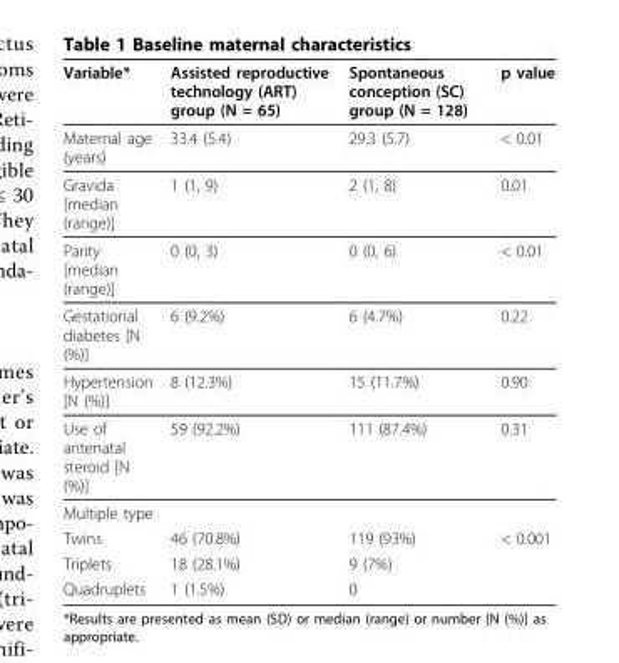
<table><thead><tr><td>Variable*</td><td>Assisted reproductive technology (ART) group (N = 65)</td><td>Spontaneous conception (SC) group (N = 128)</td><td>p value</td></tr></thead><tbody><tr><td>Maternal age (years)</td><td>33.4 (5.4)</td><td>29.3 (5.7)</td><td>&lt; 0.01</td></tr><tr><td>Gravida [median (range)]</td><td>1 (1, 9)</td><td>2 (1, 8)</td><td>0.01</td></tr><tr><td>Parity [median (range)]</td><td>0 (0, 3)</td><td>0 (0, 6)</td><td>&lt; 0.01</td></tr><tr><td>Gestational diabetes [N (%)]</td><td>6 (9.2%)</td><td>6 (4.7%)</td><td>0.22</td></tr><tr><td>Hypertension [N (%)]</td><td>8 (12.3%)</td><td>15 (11.7%)</td><td>0.90</td></tr><tr><td>Use of antenatal steroid [N (%)]</td><td>59 (92.2%)</td><td>111 (87.4%)</td><td>0.31</td></tr><tr><td colspan="4">Multiple type</td></tr><tr><td>Twins</td><td>46 (70.8%)</td><td>119 (93%)</td><td>&lt; 0.001</td></tr><tr><td>Triplets</td><td>18 (28.1%)</td><td>9 (7%)</td><td></td></tr><tr><td>Quadruplets</td><td>1 (1.5%)</td><td>0</td><td></td></tr></tbody></table>